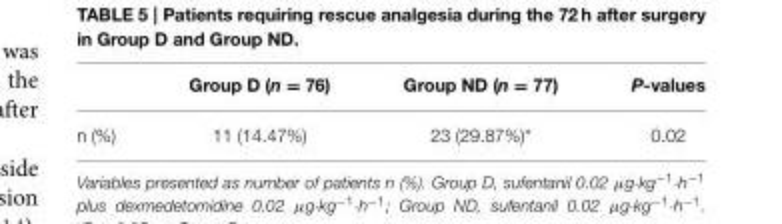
<table><thead><tr><td></td><td>Group D (n = 76)</td><td>Group ND (n = 77)</td><td>P-values</td></tr></thead><tbody><tr><td>n (%)</td><td>11 (14.47%)</td><td>23 (29.87%)*</td><td>0.02</td></tr></tbody></table>